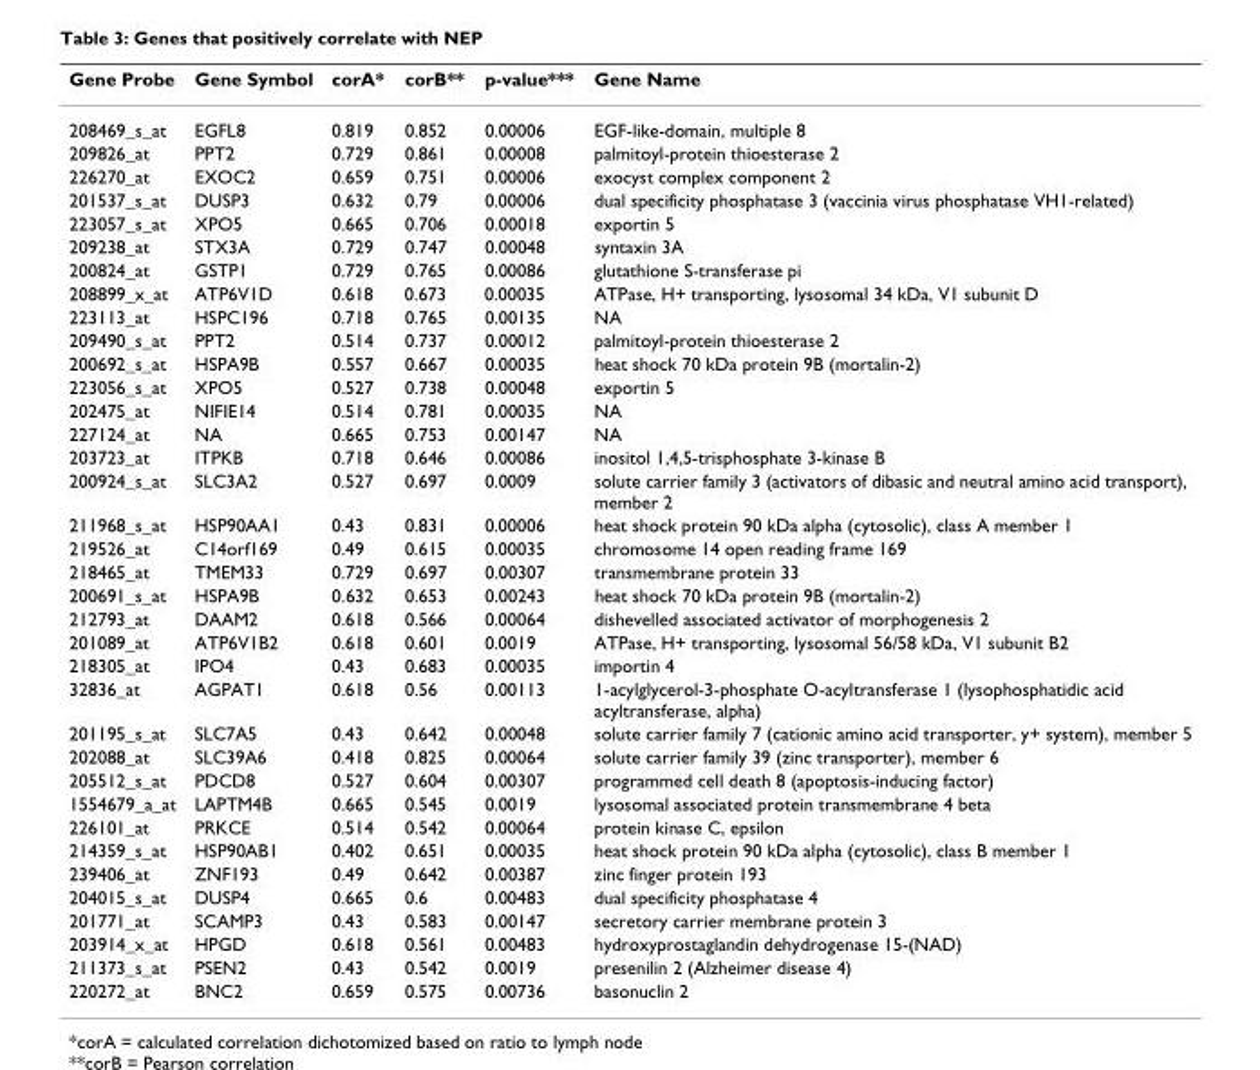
<table><thead><tr><td>Gene Probe</td><td>Gene Symbol</td><td>corA*</td><td>corB**</td><td>p-value***</td><td>Gene Name</td></tr></thead><tbody><tr><td>208469_s_at</td><td>EGFL8</td><td>0.819</td><td>0.852</td><td>0.00006</td><td>EGF-like-domain, multiple 8</td></tr><tr><td>209826_at</td><td>PPT2</td><td>0.729</td><td>0.861</td><td>0.00008</td><td>palmitoyl-protein thioesterase 2</td></tr><tr><td>226270_at</td><td>EXOC2</td><td>0.659</td><td>0.751</td><td>0.00006</td><td>exocyst complex component 2</td></tr><tr><td>201537_s_at</td><td>DUSP3</td><td>0.632</td><td>0.79</td><td>0.00006</td><td>dual specificity phosphatase 3 (vaccinia virus phosphatase VH1-related)</td></tr><tr><td>223057_s_at</td><td>XPO5</td><td>0.665</td><td>0.706</td><td>0.00018</td><td>exportin 5</td></tr><tr><td>209238_at</td><td>STX3A</td><td>0.729</td><td>0.747</td><td>0.00048</td><td>syntaxin 3A</td></tr><tr><td>200824_at</td><td>GSTP1</td><td>0.729</td><td>0.765</td><td>0.00086</td><td>glutathione S-transferase pi</td></tr><tr><td>208899_x_at</td><td>ATP6V1D</td><td>0.618</td><td>0.673</td><td>0.00035</td><td>ATPase, H+ transporting, lysosomal 34 kDa, V1 subunit D</td></tr><tr><td>223113_at</td><td>HSPC196</td><td>0.718</td><td>0.765</td><td>0.00135</td><td>NA</td></tr><tr><td>209490_s_at</td><td>PPT2</td><td>0.514</td><td>0.737</td><td>0.00012</td><td>palmitoyl-protein thioesterase 2</td></tr><tr><td>200692_s_at</td><td>HSPA9B</td><td>0.557</td><td>0.667</td><td>0.00035</td><td>heat shock 70 kDa protein 9B (mortalin-2)</td></tr><tr><td>223056_s_at</td><td>XPO5</td><td>0.527</td><td>0.738</td><td>0.00048</td><td>exportin 5</td></tr><tr><td>202475_at</td><td>NIFIE14</td><td>0.514</td><td>0.781</td><td>0.00035</td><td>NA</td></tr><tr><td>227124_at</td><td>NA</td><td>0.665</td><td>0.753</td><td>0.00147</td><td>NA</td></tr><tr><td>203723_at</td><td>ITPKB</td><td>0.718</td><td>0.646</td><td>0.00086</td><td>inositol 1,4,5-trisphosphate 3-kinase B</td></tr><tr><td>200924_s_at</td><td>SLC3A2</td><td>0.527</td><td>0.697</td><td>0.0009</td><td>solute carrier family 3 (activators of dibasic and neutral amino acid transport), member 2</td></tr><tr><td>211968_s_at</td><td>HSP90AA1</td><td>0.43</td><td>0.831</td><td>0.00006</td><td>heat shock protein 90 kDa alpha (cytosolic), class A member 1</td></tr><tr><td>219526_at</td><td>C14orf169</td><td>0.49</td><td>0.615</td><td>0.00035</td><td>chromosome 14 open reading frame 169</td></tr><tr><td>218465_at</td><td>TMEM33</td><td>0.729</td><td>0.697</td><td>0.00307</td><td>transmembrane protein 33</td></tr><tr><td>200691_s_at</td><td>HSPA9B</td><td>0.632</td><td>0.653</td><td>0.00243</td><td>heat shock 70 kDa protein 9B (mortalin-2)</td></tr><tr><td>212793_at</td><td>DAAM2</td><td>0.618</td><td>0.566</td><td>0.00064</td><td>dishevelled associated activator of morphogenesis 2</td></tr><tr><td>201089_at</td><td>ATP6V1B2</td><td>0.618</td><td>0.601</td><td>0.0019</td><td>ATPase, H+ transporting, lysosomal 56/58 kDa, V1 subunit B2</td></tr><tr><td>218305_at</td><td>IPO4</td><td>0.43</td><td>0.683</td><td>0.00035</td><td>importin 4</td></tr><tr><td>32836_at</td><td>AGPAT1</td><td>0.618</td><td>0.56</td><td>0.00113</td><td>1-acylglycerol-3-phosphate O-acyltransferase 1 (lysophosphatidic acid acyltransferase, alpha)</td></tr><tr><td>201195_s_at</td><td>SLC7A5</td><td>0.43</td><td>0.642</td><td>0.00048</td><td>solute carrier family 7 (cationic amino acid transporter, y+ system), member 5</td></tr><tr><td>202088_at</td><td>SLC39A6</td><td>0.418</td><td>0.825</td><td>0.00064</td><td>solute carrier family 39 (zinc transporter), member 6</td></tr><tr><td>205512_s_at</td><td>PDCD8</td><td>0.527</td><td>0.604</td><td>0.00307</td><td>programmed cell death 8 (apoptosis-inducing factor)</td></tr><tr><td>1554679_a_at</td><td>LAPTM4B</td><td>0.665</td><td>0.545</td><td>0.0019</td><td>lysosomal associated protein transmembrane 4 beta</td></tr><tr><td>226101_at</td><td>PRKCE</td><td>0.514</td><td>0.542</td><td>0.00064</td><td>protein kinase C, epsilon</td></tr><tr><td>214359_s_at</td><td>HSP90AB1</td><td>0.402</td><td>0.651</td><td>0.00035</td><td>heat shock protein 90 kDa alpha (cytosolic), class B member 1</td></tr><tr><td>239406_at</td><td>ZNF193</td><td>0.49</td><td>0.642</td><td>0.00387</td><td>zinc finger protein 193</td></tr><tr><td>204015_s_at</td><td>DUSP4</td><td>0.665</td><td>0.6</td><td>0.00483</td><td>dual specificity phosphatase 4</td></tr><tr><td>201771_at</td><td>SCAMP3</td><td>0.43</td><td>0.583</td><td>0.00147</td><td>secretory carrier membrane protein 3</td></tr><tr><td>203914_x_at</td><td>HPGD</td><td>0.618</td><td>0.561</td><td>0.00483</td><td>hydroxyprostaglandin dehydrogenase 15-(NAD)</td></tr><tr><td>211373_s_at</td><td>PSEN2</td><td>0.43</td><td>0.542</td><td>0.0019</td><td>presenilin 2 (Alzheimer disease 4)</td></tr><tr><td>220272_at</td><td>BNC2</td><td>0.659</td><td>0.575</td><td>0.00736</td><td>basonuclin 2</td></tr></tbody></table>